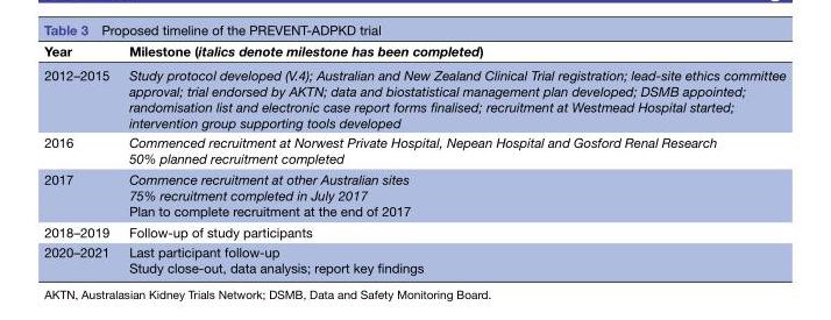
<table><thead><tr><td>Year</td><td>Milestone (italics denote milestone has been completed)</td></tr></thead><tbody><tr><td>2012–2015</td><td>Study protocol developed (V.4); Australian and New Zealand Clinical Trial registration; lead-site ethics committee approval; trial endorsed by AKTN; data and biostatistical management plan developed; DSMB appointed; randomisation list and electronic case report forms finalised; recruitment at Westmead Hospital started; intervention group supporting tools developed</td></tr><tr><td>2016</td><td>Commenced recruitment at Norwest Private Hospital, Nepean Hospital and Gosford Renal Research 50% planned recruitment completed</td></tr><tr><td>2017</td><td>Commence recruitment at other Australian sites 75% recruitment completed in July 2017 Plan to complete recruitment at the end of 2017</td></tr><tr><td>2018–2019</td><td>Follow-up of study participants</td></tr><tr><td>2020–2021</td><td>Last participant follow-up Study close-out, data analysis; report key findings</td></tr></tbody></table>